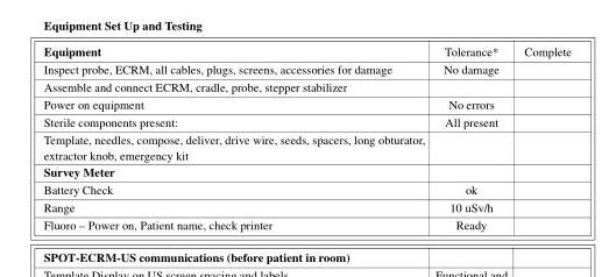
<table><thead><tr><td>Equipment</td><td>Tolerance*</td><td>Complete</td></tr></thead><tbody><tr><td>Inspect probe, ECRM, all cables, plugs, screens, accessories for damage</td><td>No damage</td><td></td></tr><tr><td colspan="3">Assemble and connect ECRM, cradle, probe, stepper stabilizer</td></tr><tr><td>Power on equipment</td><td>No errors</td><td></td></tr><tr><td>Sterile components present:</td><td>All present</td><td></td></tr><tr><td colspan="3">Template, needles, compose, deliver, drive wire, seeds, spacers, long obturator, extractor knob, emergency kit</td></tr><tr><td colspan="3">Survey Meter</td></tr><tr><td>Battery Check</td><td>ok</td><td></td></tr><tr><td>Range</td><td>10 uSv/h</td><td></td></tr><tr><td>Fluoro – Power on, Patient name, check printer</td><td>Ready</td><td></td></tr></tbody></table>